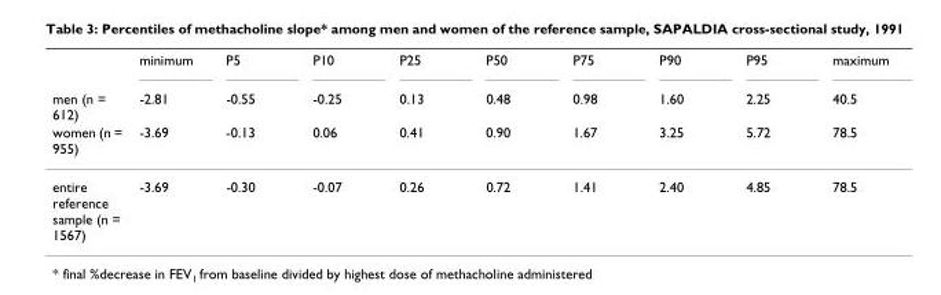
<table><thead><tr><td rowspan="3">men (n = 612) women (n = 955)</td><td rowspan="3">minimum -2.81 -3.69</td><td rowspan="3">P5 -0.55 -0.13</td><td rowspan="3">P10 -0.25 0.06</td><td rowspan="3">P25 0.13 0.41</td><td rowspan="3">P50 0.48 0.90</td><td rowspan="3">P75 0.98 1.67</td><td rowspan="3">P90 1.60 3.25</td><td rowspan="3">P95 2.25 5.72</td><td rowspan="3">maximum 40.5 78.5</td></tr><tr></tr><tr></tr></thead><tbody><tr><td>entire reference sample (n = 1567)</td><td>-3.69</td><td>-0.30</td><td>-0.07</td><td>0.26</td><td>0.72</td><td>1.41</td><td>2.40</td><td>4.85</td><td>78.5</td></tr></tbody></table>